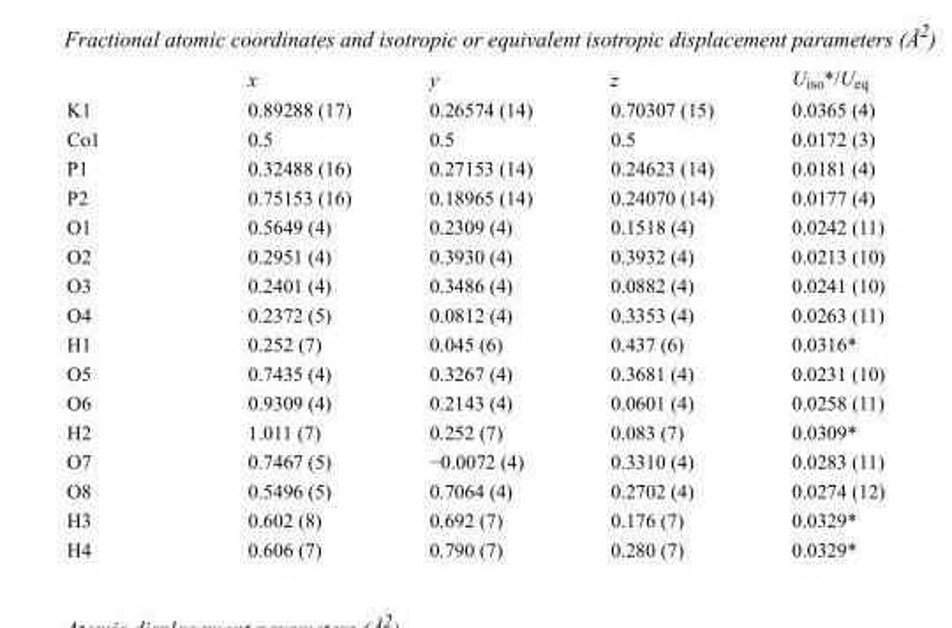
<table><thead><tr><td></td><td>x</td><td>y</td><td>z</td><td>U<sub>iso</sub>*/U<sub>eq</sub></td></tr></thead><tbody><tr><td>K1</td><td>0.89288 (17)</td><td>0.26574 (14)</td><td>0.70307 (15)</td><td>0.0365 (4)</td></tr><tr><td>Co1</td><td>0.5</td><td>0.5</td><td>0.5</td><td>0.0172 (3)</td></tr><tr><td>P1</td><td>0.32488 (16)</td><td>0.27153 (14)</td><td>0.24623 (14)</td><td>0.0181 (4)</td></tr><tr><td>P2</td><td>0.75153 (16)</td><td>0.18965 (14)</td><td>0.24070 (14)</td><td>0.0177 (4)</td></tr><tr><td>O1</td><td>0.5649 (4)</td><td>0.2309 (4)</td><td>0.1518 (4)</td><td>0.0242 (11)</td></tr><tr><td>O2</td><td>0.2951 (4)</td><td>0.3930 (4)</td><td>0.3932 (4)</td><td>0.0213 (10)</td></tr><tr><td>O3</td><td>0.2401 (4)</td><td>0.3486 (4)</td><td>0.0882 (4)</td><td>0.0241 (10)</td></tr><tr><td>O4</td><td>0.2372 (5)</td><td>0.0812 (4)</td><td>0.3353 (4)</td><td>0.0263 (11)</td></tr><tr><td>H1</td><td>0.252 (7)</td><td>0.045 (6)</td><td>0.437 (6)</td><td>0.0316*</td></tr><tr><td>O5</td><td>0.7435 (4)</td><td>0.3267 (4)</td><td>0.3681 (4)</td><td>0.0231 (10)</td></tr><tr><td>O6</td><td>0.9309 (4)</td><td>0.2143 (4)</td><td>0.0601 (4)</td><td>0.0258 (11)</td></tr><tr><td>H2</td><td>1.011 (7)</td><td>0.252 (7)</td><td>0.083 (7)</td><td>0.0309*</td></tr><tr><td>O7</td><td>0.7467 (5)</td><td>−0.0072 (4)</td><td>0.3310 (4)</td><td>0.0283 (11)</td></tr><tr><td>O8</td><td>0.5496 (5)</td><td>0.7064 (4)</td><td>0.2702 (4)</td><td>0.0274 (12)</td></tr><tr><td>H3</td><td>0.602 (8)</td><td>0.692 (7)</td><td>0.176 (7)</td><td>0.0329*</td></tr><tr><td>H4</td><td>0.606 (7)</td><td>0.790 (7)</td><td>0.280 (7)</td><td>0.0329*</td></tr></tbody></table>